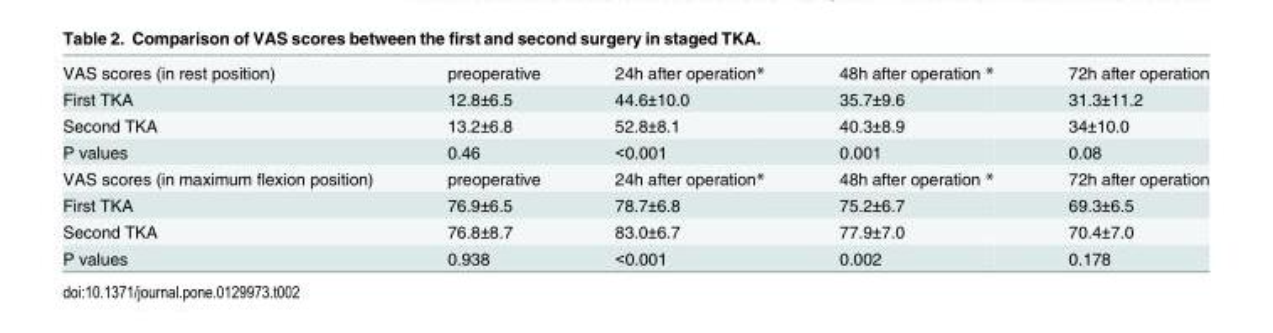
<table><tbody><tr><td>VAS scores (in rest position)</td><td>preoperative</td><td>24h after operation*</td><td>48h after operation *</td><td>72h after operation</td></tr><tr><td>First TKA</td><td>12.8±6.5</td><td>44.6±10.0</td><td>35.7±9.6</td><td>31.3±11.2</td></tr><tr><td>Second TKA</td><td>13.2±6.8</td><td>52.8±8.1</td><td>40.3±8.9</td><td>34±10.0</td></tr><tr><td>P values</td><td>0.46</td><td>&lt;0.001</td><td>0.001</td><td>0.08</td></tr><tr><td>VAS scores (in maximum flexion position)</td><td>preoperative</td><td>24h after operation*</td><td>48h after operation *</td><td>72h after operation</td></tr><tr><td>First TKA</td><td>76.9±6.5</td><td>78.7±6.8</td><td>75.2±6.7</td><td>69.3±6.5</td></tr><tr><td>Second TKA</td><td>76.8±8.7</td><td>83.0±6.7</td><td>77.9±7.0</td><td>70.4±7.0</td></tr><tr><td>P values</td><td>0.938</td><td>&lt;0.001</td><td>0.002</td><td>0.178</td></tr></tbody></table>